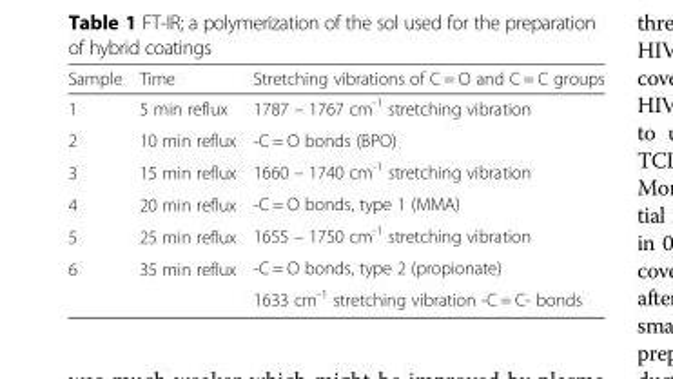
<table><thead><tr><td>Sample</td><td>Time</td><td>Stretching vibrations of C = O and C = C groups</td></tr></thead><tbody><tr><td>1</td><td>5 min reflux</td><td rowspan="6">1787 – 1767 cm<sup>-1</sup> stretching vibration -C = O bonds (BPO) 1660 – 1740 cm<sup>-1</sup> stretching vibration -C = O bonds, type 1 (MMA) 1655 – 1750 cm<sup>-1</sup> stretching vibration -C = O bonds, type 2 (propionate) 1633 cm<sup>-1</sup> stretching vibration -C = C- bonds</td></tr><tr><td>2</td><td>10 min reflux</td></tr><tr><td>3</td><td>15 min reflux</td></tr><tr><td>4</td><td>20 min reflux</td></tr><tr><td>5</td><td>25 min reflux</td></tr><tr><td>6</td><td>35 min reflux</td></tr></tbody></table>